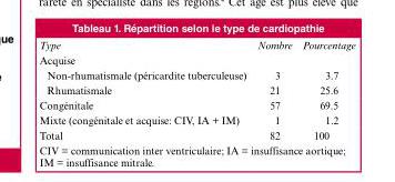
<table><thead><tr><td>Type</td><td>Nombre</td><td>Pourcentage</td></tr></thead><tbody><tr><td colspan="3">Acquise</td></tr><tr><td>Non-rhumatismale (péricardite tuberculeuse)</td><td>3</td><td>3.7</td></tr><tr><td>Rhumatismale</td><td>21</td><td>25.6</td></tr><tr><td>Congénitale</td><td>57</td><td>69.5</td></tr><tr><td>Mixte (congénitale et acquise: CIV, IA + IM)</td><td>1</td><td>1.2</td></tr><tr><td>Total</td><td>82</td><td>100</td></tr></tbody></table>